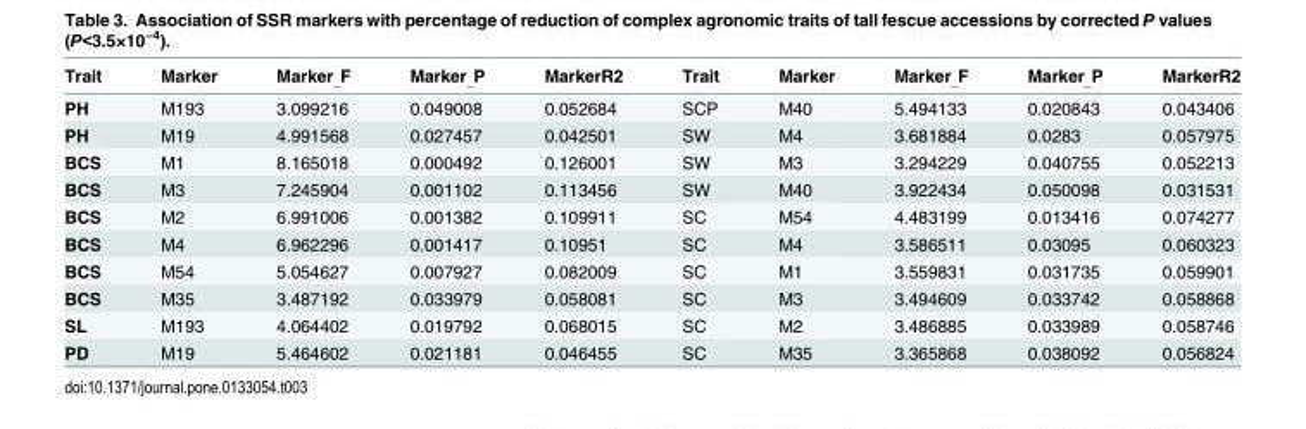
<table><thead><tr><td>Trait</td><td>Marker</td><td>Marker<sub>_</sub>F</td><td>Marker<sub>_</sub>P</td><td>MarkerR2</td><td>Trait</td><td>Marker</td><td>Marker<sub>_</sub>F</td><td>Marker<sub>_</sub>P</td><td>MarkerR2</td></tr></thead><tbody><tr><td>PH</td><td>M193</td><td>3.099216</td><td>0.049008</td><td>0.052684</td><td>SCP</td><td>M40</td><td>5.494133</td><td>0.020843</td><td>0.043406</td></tr><tr><td>PH</td><td>M19</td><td>4.991568</td><td>0.027457</td><td>0.042501</td><td>SW</td><td>M4</td><td>3.681884</td><td>0.0283</td><td>0.057975</td></tr><tr><td>BCS</td><td>M1</td><td>8.165018</td><td>0.000492</td><td>0.126001</td><td>SW</td><td>M3</td><td>3.294229</td><td>0.040755</td><td>0.052213</td></tr><tr><td>BCS</td><td>M3</td><td>7.245904</td><td>0.001102</td><td>0.113456</td><td>SW</td><td>M40</td><td>3.922434</td><td>0.050098</td><td>0.031531</td></tr><tr><td>BCS</td><td>M2</td><td>6.991006</td><td>0.001382</td><td>0.109911</td><td>SC</td><td>M54</td><td>4.483199</td><td>0.013416</td><td>0.074277</td></tr><tr><td>BCS</td><td>M4</td><td>6.962296</td><td>0.001417</td><td>0.10951</td><td>SC</td><td>M4</td><td>3.586511</td><td>0.03095</td><td>0.060323</td></tr><tr><td>BCS</td><td>M54</td><td>5.054627</td><td>0.007927</td><td>0.082009</td><td>SC</td><td>M1</td><td>3.559831</td><td>0.031735</td><td>0.059901</td></tr><tr><td>BCS</td><td>M35</td><td>3.487192</td><td>0.033979</td><td>0.058081</td><td>SC</td><td>M3</td><td>3.494609</td><td>0.033742</td><td>0.058868</td></tr><tr><td>SL</td><td>M193</td><td>4.064402</td><td>0.019792</td><td>0.068015</td><td>SC</td><td>M2</td><td>3.486885</td><td>0.033989</td><td>0.058746</td></tr><tr><td>PD</td><td>M19</td><td>5.464602</td><td>0.021181</td><td>0.046455</td><td>SC</td><td>M35</td><td>3.365868</td><td>0.038092</td><td>0.056824</td></tr></tbody></table>